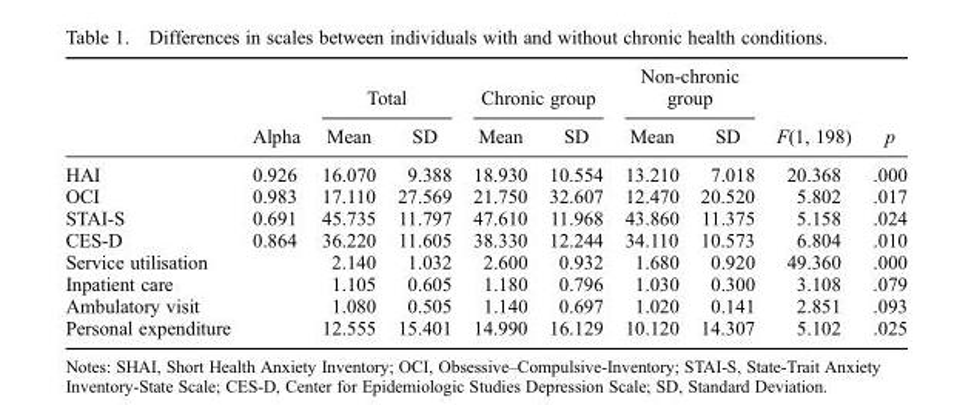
<table><thead><tr><td rowspan="2"></td><td rowspan="2">Alpha</td><td colspan="2">Total</td><td colspan="2">Chronic group</td><td colspan="2">Non-chronic group</td><td rowspan="2">F(1, 198)</td><td rowspan="2">p</td></tr><tr><td>Mean</td><td>SD</td><td>Mean</td><td>SD</td><td>Mean</td><td>SD</td></tr></thead><tbody><tr><td>HAI</td><td>0.926</td><td>16.070</td><td>9.388</td><td>18.930</td><td>10.554</td><td>13.210</td><td>7.018</td><td>20.368</td><td>.000</td></tr><tr><td>OCI</td><td>0.983</td><td>17.110</td><td>27.569</td><td>21.750</td><td>32.607</td><td>12.470</td><td>20.520</td><td>5.802</td><td>.017</td></tr><tr><td>STAI-S</td><td>0.691</td><td>45.735</td><td>11.797</td><td>47.610</td><td>11.968</td><td>43.860</td><td>11.375</td><td>5.158</td><td>.024</td></tr><tr><td>CES-D</td><td>0.864</td><td>36.220</td><td>11.605</td><td>38.330</td><td>12.244</td><td>34.110</td><td>10.573</td><td>6.804</td><td>.010</td></tr><tr><td>Service utilisation</td><td></td><td>2.140</td><td>1.032</td><td>2.600</td><td>0.932</td><td>1.680</td><td>0.920</td><td>49.360</td><td>.000</td></tr><tr><td>Inpatient care</td><td></td><td>1.105</td><td>0.605</td><td>1.180</td><td>0.796</td><td>1.030</td><td>0.300</td><td>3.108</td><td>.079</td></tr><tr><td>Ambulatory visit</td><td></td><td>1.080</td><td>0.505</td><td>1.140</td><td>0.697</td><td>1.020</td><td>0.141</td><td>2.851</td><td>.093</td></tr><tr><td>Personal expenditure</td><td></td><td>12.555</td><td>15.401</td><td>14.990</td><td>16.129</td><td>10.120</td><td>14.307</td><td>5.102</td><td>.025</td></tr></tbody></table>